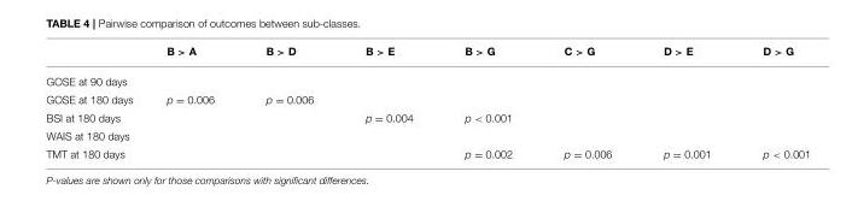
<table><thead><tr><td></td><td>B &gt; A</td><td>B &gt; D</td><td>B &gt; E</td><td>B &gt; G</td><td>C &gt; G</td><td>D &gt; E</td><td>D &gt; G</td></tr></thead><tbody><tr><td colspan="8">GOSE at 90 days</td></tr><tr><td>GOSE at 180 days</td><td>p = 0.006</td><td>p = 0.006</td><td></td><td></td><td></td><td></td><td></td></tr><tr><td>BSI at 180 days</td><td></td><td></td><td>p = 0.004</td><td>p &lt; 0.001</td><td></td><td></td><td></td></tr><tr><td colspan="8">WAIS at 180 days</td></tr><tr><td>TMT at 180 days</td><td></td><td></td><td></td><td>p = 0.002</td><td>p = 0.006</td><td>p = 0.001</td><td>p &lt; 0.001</td></tr></tbody></table>